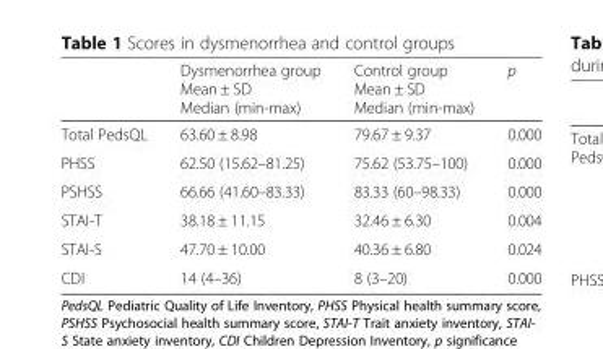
<table><thead><tr><td></td><td>Dysmenorrhea group Mean ± SD Median (min-max)</td><td>Control group Mean ± SD Median (min-max)</td><td>p</td></tr></thead><tbody><tr><td>Total PedsQL</td><td>63.60 ± 8.98</td><td>79.67 ± 9.37</td><td>0.000</td></tr><tr><td>PHSS</td><td>62.50 (15.62–81.25)</td><td>75.62 (53.75–100)</td><td>0.000</td></tr><tr><td>PSHSS</td><td>66.66 (41.60–83.33)</td><td>83.33 (60–98.33)</td><td>0.000</td></tr><tr><td>STAI-T</td><td>38.18 ± 11.15</td><td>32.46 ± 6.30</td><td>0.004</td></tr><tr><td>STAI-S</td><td>47.70 ± 10.00</td><td>40.36 ± 6.80</td><td>0.024</td></tr><tr><td>CDI</td><td>14 (4–36)</td><td>8 (3–20)</td><td>0.000</td></tr></tbody></table>